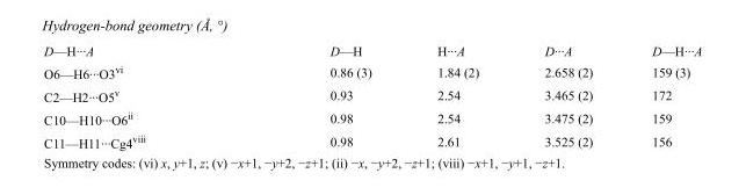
<table><tbody><tr><td>D—H···A</td><td>D—H</td><td>H···A</td><td>D···A</td><td>D—H···A</td></tr><tr><td>O6—H6···O3<sup>vi</sup></td><td>0.86 (3)</td><td>1.84 (2)</td><td>2.658 (2)</td><td>159 (3)</td></tr><tr><td>C2—H2···O5<sup>v</sup></td><td>0.93</td><td>2.54</td><td>3.465 (2)</td><td>172</td></tr><tr><td>C10—H10···O6<sup>ii</sup></td><td>0.98</td><td>2.54</td><td>3.475 (2)</td><td>159</td></tr><tr><td>C11—H11···Cg4<sup>viii</sup></td><td>0.98</td><td>2.61</td><td>3.525 (2)</td><td>156</td></tr></tbody></table>